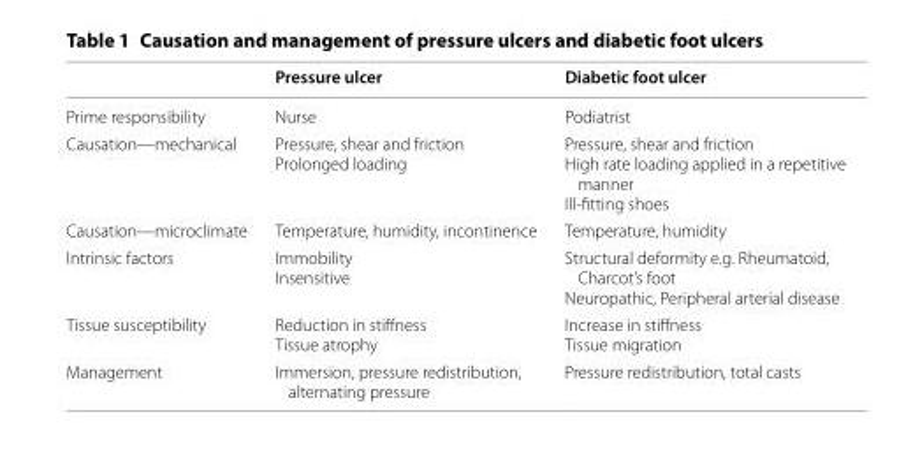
<table><thead><tr><td></td><td>Pressure ulcer</td><td>Diabetic foot ulcer</td></tr></thead><tbody><tr><td>Prime responsibility</td><td>Nurse</td><td>Podiatrist</td></tr><tr><td>Causation—mechanical</td><td>Pressure, shear and friction Prolonged loading</td><td>Pressure, shear and friction High rate loading applied in a repetitive manner Ill-fitting shoes</td></tr><tr><td>Causation—microclimate</td><td>Temperature, humidity, incontinence</td><td>Temperature, humidity</td></tr><tr><td>Intrinsic factors</td><td>Immobility Insensitive</td><td>Structural deformity e.g. Rheumatoid, Charcot’s foot Neuropathic, Peripheral arterial disease</td></tr><tr><td>Tissue susceptibility</td><td>Reduction in stiffness Tissue atrophy</td><td>Increase in stiffness Tissue migration</td></tr><tr><td>Management</td><td>Immersion, pressure redistribution, alternating pressure</td><td>Pressure redistribution, total casts</td></tr></tbody></table>